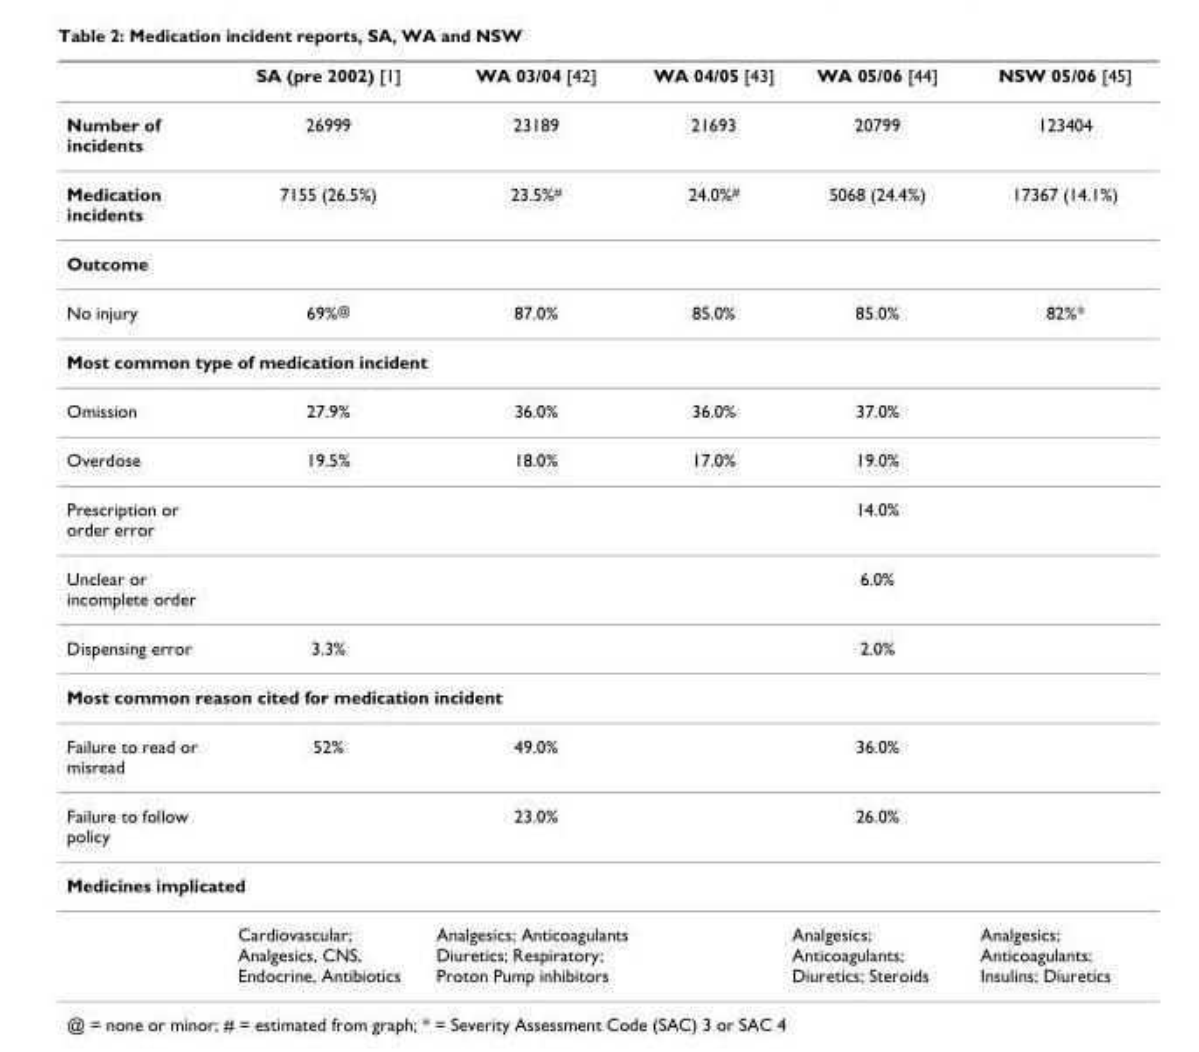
<table><thead><tr><td></td><td>SA (pre 2002) [1]</td><td>WA 03/04 [42]</td><td>WA 04/05 [43]</td><td>WA 05/06 [44]</td><td>NSW 05/06 [45]</td></tr></thead><tbody><tr><td>Number of incidents</td><td>26999</td><td>23189</td><td>21693</td><td>20799</td><td>123404</td></tr><tr><td>Medication incidents</td><td>7155 (26.5%)</td><td>23.5%<sup>#</sup></td><td>24.0%<sup>#</sup></td><td>5068 (24.4%)</td><td>17367 (14.1%)</td></tr><tr><td colspan="6">Outcome</td></tr><tr><td>No injury</td><td>69%<sup>@</sup></td><td>87.0%</td><td>85.0%</td><td>85.0%</td><td>82%*</td></tr><tr><td colspan="6">Most common type of medication incident</td></tr><tr><td>Omission</td><td>27.9%</td><td>36.0%</td><td>36.0%</td><td>37.0%</td><td></td></tr><tr><td>Overdose</td><td>19.5%</td><td>18.0%</td><td>17.0%</td><td>19.0%</td><td></td></tr><tr><td>Prescription or order error</td><td></td><td></td><td></td><td>14.0%</td><td></td></tr><tr><td>Unclear or incomplete order</td><td></td><td></td><td></td><td>6.0%</td><td></td></tr><tr><td>Dispensing error</td><td>3.3%</td><td></td><td></td><td>2.0%</td><td></td></tr><tr><td colspan="6">Most common reason cited for medication incident</td></tr><tr><td>Failure to read or misread</td><td>52%</td><td>49.0%</td><td></td><td>36.0%</td><td></td></tr><tr><td>Failure to follow policy</td><td></td><td>23.0%</td><td></td><td>26.0%</td><td></td></tr><tr><td colspan="6">Medicines implicated</td></tr><tr><td></td><td>Cardiovascular; Analgesics, CNS, Endocrine, Antibiotics</td><td>Analgesics; Anticoagulants Diuretics; Respiratory; Proton Pump inhibitors</td><td></td><td>Analgesics; Anticoagulants; Diuretics; Steroids</td><td>Analgesics; Anticoagulants; Insulins; Diuretics</td></tr></tbody></table>